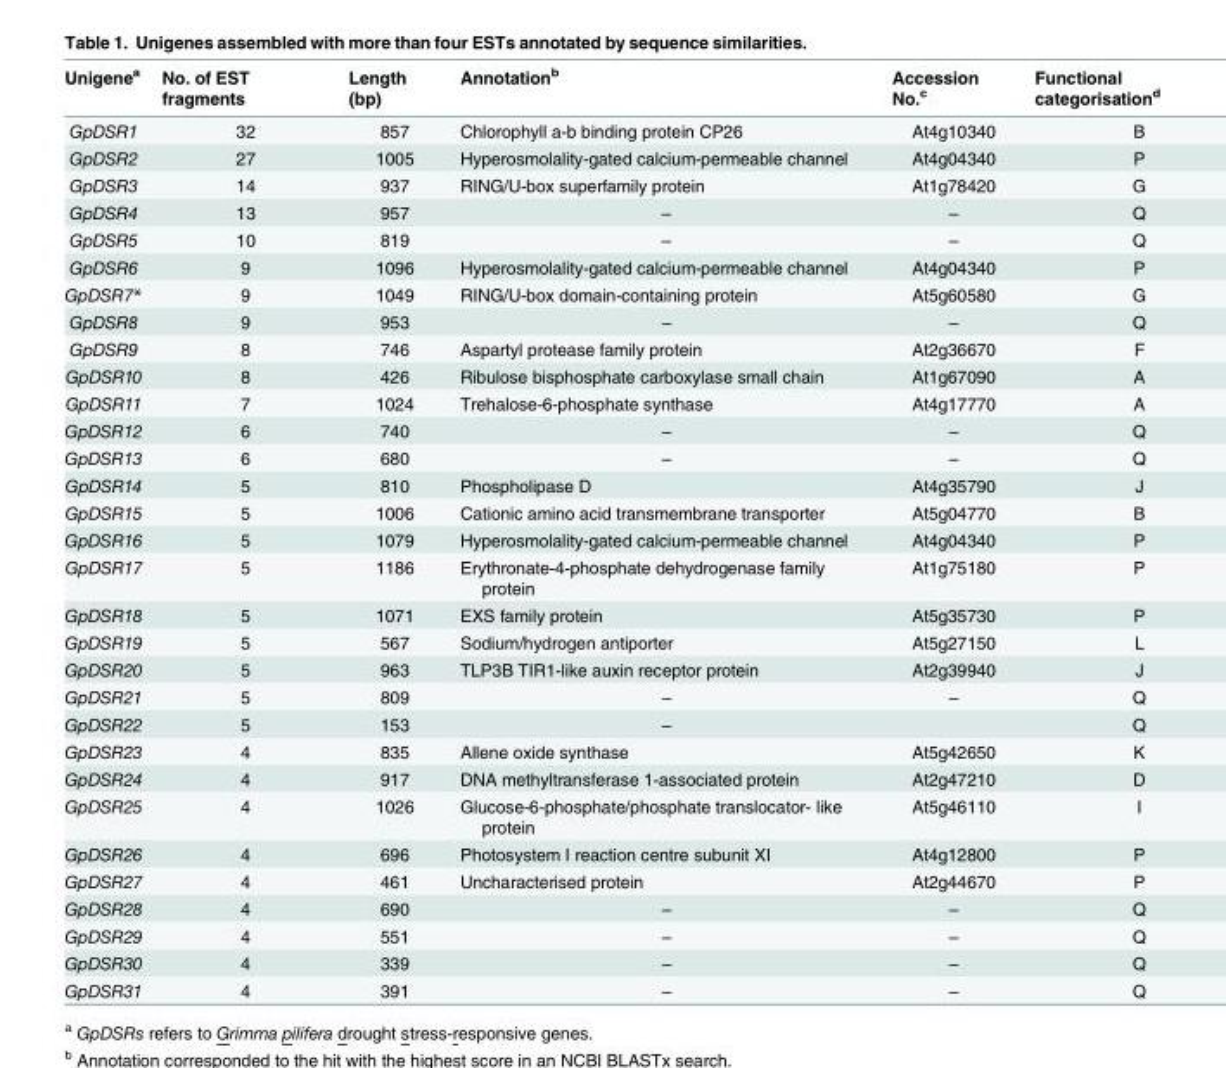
<table><thead><tr><td>Unigene<sup>a</sup></td><td>No. of EST fragments</td><td>Length (bp)</td><td>Annotation<sup>b</sup></td><td>Accession No.<sup>c</sup></td><td>Functional categorisation<sup>d</sup></td></tr></thead><tbody><tr><td>GpDSR1</td><td>32</td><td>857</td><td>Chlorophyll a-b binding protein CP26</td><td>At4g10340</td><td>B</td></tr><tr><td>GpDSR2</td><td>27</td><td>1005</td><td>Hyperosmolality-gated calcium-permeable channel</td><td>At4g04340</td><td>P</td></tr><tr><td>GpDSR3</td><td>14</td><td>937</td><td>RING/U-box superfamily protein</td><td>At1g78420</td><td>G</td></tr><tr><td>GpDSR4</td><td>13</td><td>957</td><td>–</td><td>–</td><td>Q</td></tr><tr><td>GpDSR5</td><td>10</td><td>819</td><td>–</td><td>–</td><td>Q</td></tr><tr><td>GpDSR6</td><td>9</td><td>1096</td><td>Hyperosmolality-gated calcium-permeable channel</td><td>At4g04340</td><td>P</td></tr><tr><td>GpDSR7*</td><td>9</td><td>1049</td><td>RING/U-box domain-containing protein</td><td>At5g60580</td><td>G</td></tr><tr><td>GpDSR8</td><td>9</td><td>953</td><td>–</td><td>–</td><td>Q</td></tr><tr><td>GpDSR9</td><td>8</td><td>746</td><td>Aspartyl protease family protein</td><td>At2g36670</td><td>F</td></tr><tr><td>GpDSR10</td><td>8</td><td>426</td><td>Ribulose bisphosphate carboxylase small chain</td><td>At1g67090</td><td>A</td></tr><tr><td>GpDSR11</td><td>7</td><td>1024</td><td>Trehalose-6-phosphate synthase</td><td>At4g17770</td><td>A</td></tr><tr><td>GpDSR12</td><td>6</td><td>740</td><td>–</td><td>–</td><td>Q</td></tr><tr><td>GpDSR13</td><td>6</td><td>680</td><td>–</td><td>–</td><td>Q</td></tr><tr><td>GpDSR14</td><td>5</td><td>810</td><td>Phospholipase D</td><td>At4g35790</td><td>J</td></tr><tr><td>GpDSR15</td><td>5</td><td>1006</td><td>Cationic amino acid transmembrane transporter</td><td>At5g04770</td><td>B</td></tr><tr><td>GpDSR16</td><td>5</td><td>1079</td><td>Hyperosmolality-gated calcium-permeable channel</td><td>At4g04340</td><td>P</td></tr><tr><td>GpDSR17</td><td>5</td><td>1186</td><td>Erythronate-4-phosphate dehydrogenase family protein</td><td>At1g75180</td><td>P</td></tr><tr><td>GpDSR18</td><td>5</td><td>1071</td><td>EXS family protein</td><td>At5g35730</td><td>P</td></tr><tr><td>GpDSR19</td><td>5</td><td>567</td><td>Sodium/hydrogen antiporter</td><td>At5g27150</td><td>L</td></tr><tr><td>GpDSR20</td><td>5</td><td>963</td><td>TLP3B TIR1-like auxin receptor protein</td><td>At2g39940</td><td>J</td></tr><tr><td>GpDSR21</td><td>5</td><td>809</td><td>–</td><td>–</td><td>Q</td></tr><tr><td>GpDSR22</td><td>5</td><td>153</td><td>–</td><td></td><td>Q</td></tr><tr><td>GpDSR23</td><td>4</td><td>835</td><td>Allene oxide synthase</td><td>At5g42650</td><td>K</td></tr><tr><td>GpDSR24</td><td>4</td><td>917</td><td>DNA methyltransferase 1-associated protein</td><td>At2g47210</td><td>D</td></tr><tr><td>GpDSR25</td><td>4</td><td>1026</td><td>Glucose-6-phosphate/phosphate translocator- like protein</td><td>At5g46110</td><td>I</td></tr><tr><td>GpDSR26</td><td>4</td><td>696</td><td>Photosystem I reaction centre subunit XI</td><td>At4g12800</td><td>P</td></tr><tr><td>GpDSR27</td><td>4</td><td>461</td><td>Uncharacterised protein</td><td>At2g44670</td><td>P</td></tr><tr><td>GpDSR28</td><td>4</td><td>690</td><td>–</td><td>–</td><td>Q</td></tr><tr><td>GpDSR29</td><td>4</td><td>551</td><td>–</td><td>–</td><td>Q</td></tr><tr><td>GpDSR30</td><td>4</td><td>339</td><td>–</td><td>–</td><td>Q</td></tr><tr><td>GpDSR31</td><td>4</td><td>391</td><td>–</td><td>–</td><td>Q</td></tr></tbody></table>